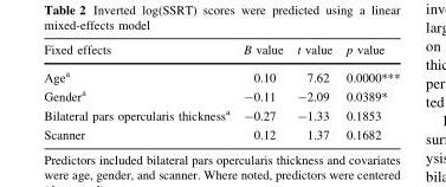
<table><thead><tr><td>Fixed effects</td><td>B value</td><td>t value</td><td>p value</td></tr></thead><tbody><tr><td>Age<sup>a</sup></td><td>0.10</td><td>7.62</td><td>0.0000***</td></tr><tr><td>Gender<sup>a</sup></td><td>-0.11</td><td>-2.09</td><td>0.0389*</td></tr><tr><td>Bilateral pars opercularis thickness<sup>a</sup></td><td>-0.27</td><td>-1.33</td><td>0.1853</td></tr><tr><td>Scanner</td><td>0.12</td><td>1.37</td><td>0.1682</td></tr></tbody></table>